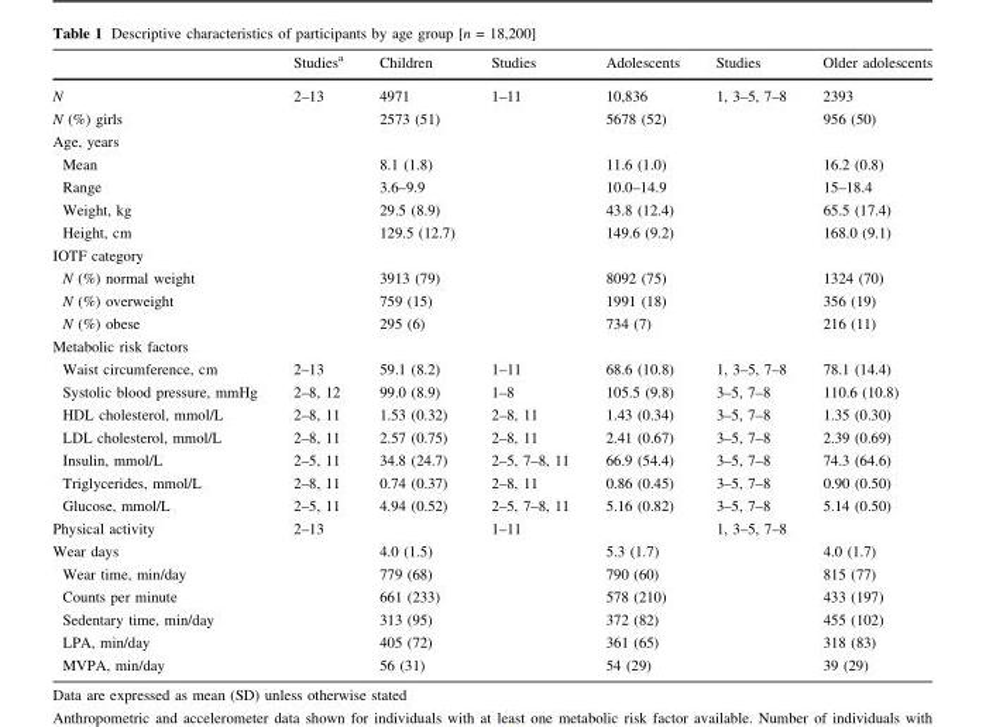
<table><thead><tr><td></td><td>Studies<sup>a</sup></td><td>Children</td><td>Studies</td><td>Adolescents</td><td>Studies</td><td>Older adolescents</td></tr></thead><tbody><tr><td>N</td><td>2–13</td><td>4971</td><td>1–11</td><td>10,836</td><td>1, 3–5, 7–8</td><td>2393</td></tr><tr><td>N (%) girls</td><td></td><td>2573 (51)</td><td></td><td>5678 (52)</td><td></td><td>956 (50)</td></tr><tr><td colspan="7">Age, years</td></tr><tr><td>Mean</td><td></td><td>8.1 (1.8)</td><td></td><td>11.6 (1.0)</td><td></td><td>16.2 (0.8)</td></tr><tr><td>Range</td><td></td><td>3.6–9.9</td><td></td><td>10.0–14.9</td><td></td><td>15–18.4</td></tr><tr><td>Weight, kg</td><td></td><td>29.5 (8.9)</td><td></td><td>43.8 (12.4)</td><td></td><td>65.5 (17.4)</td></tr><tr><td>Height, cm</td><td></td><td>129.5 (12.7)</td><td></td><td>149.6 (9.2)</td><td></td><td>168.0 (9.1)</td></tr><tr><td colspan="7">IOTF category</td></tr><tr><td>N (%) normal weight</td><td></td><td>3913 (79)</td><td></td><td>8092 (75)</td><td></td><td>1324 (70)</td></tr><tr><td>N (%) overweight</td><td></td><td>759 (15)</td><td></td><td>1991 (18)</td><td></td><td>356 (19)</td></tr><tr><td>N (%) obese</td><td></td><td>295 (6)</td><td></td><td>734 (7)</td><td></td><td>216 (11)</td></tr><tr><td colspan="7">Metabolic risk factors</td></tr><tr><td>Waist circumference, cm</td><td>2–13</td><td>59.1 (8.2)</td><td>1–11</td><td>68.6 (10.8)</td><td>1, 3–5, 7–8</td><td>78.1 (14.4)</td></tr><tr><td>Systolic blood pressure, mmHg</td><td>2–8, 12</td><td>99.0 (8.9)</td><td>1–8</td><td>105.5 (9.8)</td><td>3–5, 7–8</td><td>110.6 (10.8)</td></tr><tr><td>HDL cholesterol, mmol/L</td><td>2–8, 11</td><td>1.53 (0.32)</td><td>2–8, 11</td><td>1.43 (0.34)</td><td>3–5, 7–8</td><td>1.35 (0.30)</td></tr><tr><td>LDL cholesterol, mmol/L</td><td>2–8, 11</td><td>2.57 (0.75)</td><td>2–8, 11</td><td>2.41 (0.67)</td><td>3–5, 7–8</td><td>2.39 (0.69)</td></tr><tr><td>Insulin, mmol/L</td><td>2–5, 11</td><td>34.8 (24.7)</td><td>2–5, 7–8, 11</td><td>66.9 (54.4)</td><td>3–5, 7–8</td><td>74.3 (64.6)</td></tr><tr><td>Triglycerides, mmol/L</td><td>2–8, 11</td><td>0.74 (0.37)</td><td>2–8, 11</td><td>0.86 (0.45)</td><td>3–5, 7–8</td><td>0.90 (0.50)</td></tr><tr><td>Glucose, mmol/L</td><td>2–5, 11</td><td>4.94 (0.52)</td><td>2–5, 7–8, 11</td><td>5.16 (0.82)</td><td>3–5, 7–8</td><td>5.14 (0.50)</td></tr><tr><td>Physical activity</td><td>2–13</td><td></td><td>1–11</td><td></td><td>1, 3–5, 7–8</td><td></td></tr><tr><td>Wear days</td><td></td><td>4.0 (1.5)</td><td></td><td>5.3 (1.7)</td><td></td><td>4.0 (1.7)</td></tr><tr><td>Wear time, min/day</td><td></td><td>779 (68)</td><td></td><td>790 (60)</td><td></td><td>815 (77)</td></tr><tr><td>Counts per minute</td><td></td><td>661 (233)</td><td></td><td>578 (210)</td><td></td><td>433 (197)</td></tr><tr><td>Sedentary time, min/day</td><td></td><td>313 (95)</td><td></td><td>372 (82)</td><td></td><td>455 (102)</td></tr><tr><td>LPA, min/day</td><td></td><td>405 (72)</td><td></td><td>361 (65)</td><td></td><td>318 (83)</td></tr><tr><td>MVPA, min/day</td><td></td><td>56 (31)</td><td></td><td>54 (29)</td><td></td><td>39 (29)</td></tr></tbody></table>